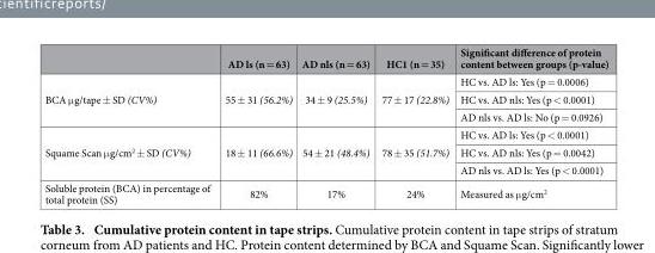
<table><thead><tr><td></td><td>AD ls (n = 63)</td><td>AD nls (n = 63)</td><td>HC1 (n = 35)</td><td>Significant difference of protein content between groups (p-value)</td></tr></thead><tbody><tr><td rowspan="3">BCA μ g/tape ± SD (CV%)</td><td rowspan="3">55 ± 31 (56.2%)</td><td rowspan="3">34 ± 9 (25.5%)</td><td rowspan="3">77 ± 17 (22.8%)</td><td>HC vs. AD ls: Yes (p = 0.0006)</td></tr><tr><td>HC vs. AD nls: Yes (p &lt; 0.0001)</td></tr><tr><td>AD nls vs. AD ls: No (p = 0.0926)</td></tr><tr><td rowspan="3">Squame Scan μ g/cm<sup>2</sup> ± SD (CV%)</td><td rowspan="3">18 ± 11 (66.6%)</td><td rowspan="3">54 ± 21 (48.4%)</td><td rowspan="3">78 ± 35 (51.7%)</td><td>HC vs. AD ls: Yes (p &lt; 0.0001)</td></tr><tr><td>HC vs. AD nls: Yes (p = 0.0042)</td></tr><tr><td>AD nls vs. AD ls: Yes (p &lt; 0.0001)</td></tr><tr><td>Soluble protein (BCA) in percentage of total protein (SS)</td><td>82%</td><td>17%</td><td>24%</td><td>Measured as μ g/cm<sup>2</sup></td></tr></tbody></table>